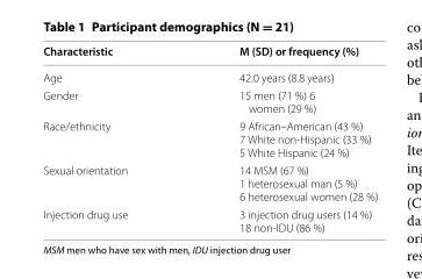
<table><thead><tr><td>Characteristic</td><td>M (SD) or frequency (%)</td></tr></thead><tbody><tr><td>Age</td><td>42.0 years (8.8 years)</td></tr><tr><td>Gender</td><td>15 men (71 %) 6 women (29 %)</td></tr><tr><td>Race/ethnicity</td><td>9 African–American (43 %) 7 White non‑Hispanic (33 %) 5 White Hispanic (24 %)</td></tr><tr><td>Sexual orientation</td><td>14 MSM (67 %) 1 heterosexual man (5 %) 6 heterosexual women (28 %)</td></tr><tr><td>Injection drug use</td><td>3 injection drug users (14 %) 18 non‑IDU (86 %)</td></tr></tbody></table>